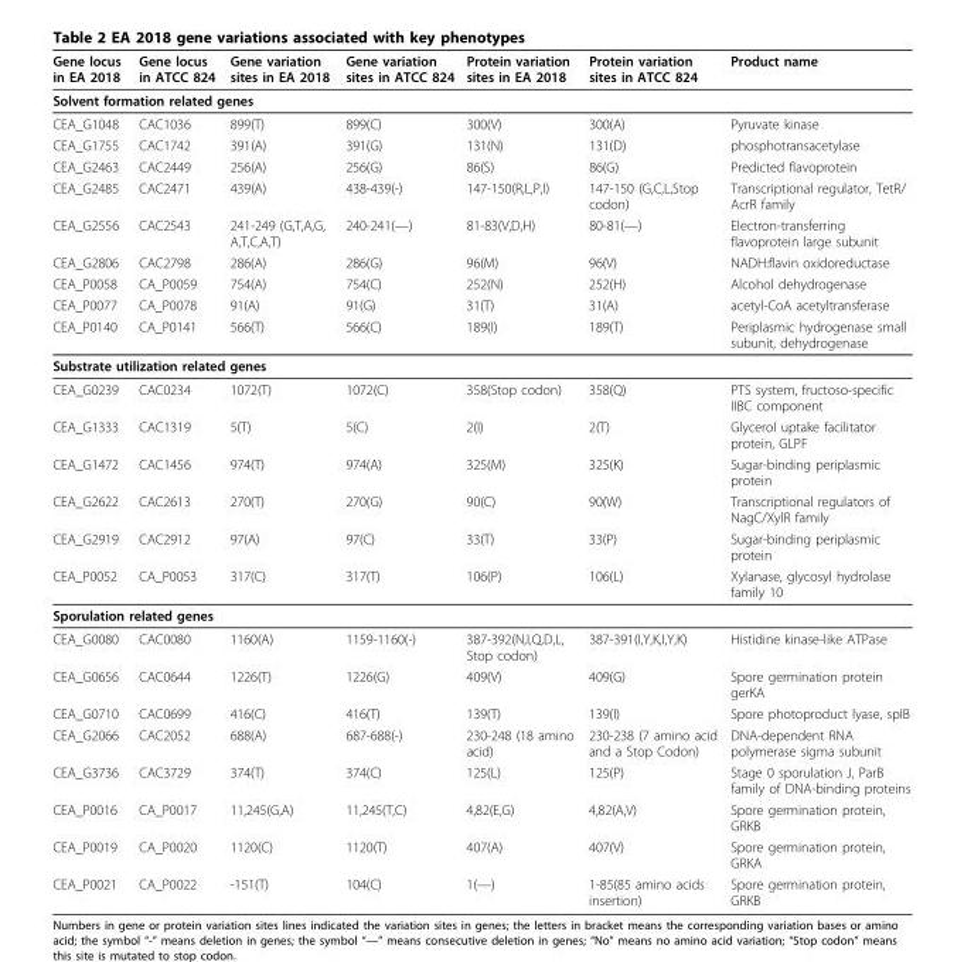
<table><thead><tr><td>Gene locus in EA 2018</td><td>Gene locus in ATCC 824</td><td>Gene variation sites in EA 2018</td><td>Gene variation sites in ATCC 824</td><td>Protein variation sites in EA 2018</td><td>Protein variation sites in ATCC 824</td><td>Product name</td></tr></thead><tbody><tr><td colspan="7">Solvent formation related genes</td></tr><tr><td>CEA_G1048</td><td>CAC1036</td><td>899(T)</td><td>899(C)</td><td>300(V)</td><td>300(A)</td><td>Pyruvate kinase</td></tr><tr><td>CEA_G1755</td><td>CAC1742</td><td>391(A)</td><td>391(G)</td><td>131(N)</td><td>131(D)</td><td>phosphotransacetylase</td></tr><tr><td>CEA_G2463</td><td>CAC2449</td><td>256(A)</td><td>256(G)</td><td>86(S)</td><td>86(G)</td><td>Predicted flavoprotein</td></tr><tr><td>CEA_G2485</td><td>CAC2471</td><td>439(A)</td><td>438-439(-)</td><td>147-150(R,L,P,I)</td><td>147-150 (G,C,L,Stop codon)</td><td>Transcriptional regulator, TetR/ AcrR family</td></tr><tr><td>CEA_G2556</td><td>CAC2543</td><td>241-249 (G,T,A,G, A,T,C,A,T)</td><td>240-241(—)</td><td>81-83(V,D,H)</td><td>80-81(—)</td><td>Electron-transferring flavoprotein large subunit</td></tr><tr><td>CEA_G2806</td><td>CAC2798</td><td>286(A)</td><td>286(G)</td><td>96(M)</td><td>96(V)</td><td>NADH:flavin oxidoreductase</td></tr><tr><td>CEA_P0058</td><td>CA_P0059</td><td>754(A)</td><td>754(C)</td><td>252(N)</td><td>252(H)</td><td>Alcohol dehydrogenase</td></tr><tr><td>CEA_P0077</td><td>CA_P0078</td><td>91(A)</td><td>91(G)</td><td>31(T)</td><td>31(A)</td><td>acetyl-CoA acetyltransferase</td></tr><tr><td>CEA_P0140</td><td>CA_P0141</td><td>566(T)</td><td>566(C)</td><td>189(I)</td><td>189(T)</td><td>Periplasmic hydrogenase small subunit, dehydrogenase</td></tr><tr><td colspan="7">Substrate utilization related genes</td></tr><tr><td>CEA_G0239</td><td>CAC0234</td><td>1072(T)</td><td>1072(C)</td><td>358(Stop codon)</td><td>358(Q)</td><td>PTS system, fructoso-specific IIBC component</td></tr><tr><td>CEA_G1333</td><td>CAC1319</td><td>5(T)</td><td>5(C)</td><td>2(I)</td><td>2(T)</td><td>Glycerol uptake facilitator protein, GLPF</td></tr><tr><td>CEA_G1472</td><td>CAC1456</td><td>974(T)</td><td>974(A)</td><td>325(M)</td><td>325(K)</td><td>Sugar-binding periplasmic protein</td></tr><tr><td>CEA_G2622</td><td>CAC2613</td><td>270(T)</td><td>270(G)</td><td>90(C)</td><td>90(W)</td><td>Transcriptional regulators of NagC/XylR family</td></tr><tr><td>CEA_G2919</td><td>CAC2912</td><td>97(A)</td><td>97(C)</td><td>33(T)</td><td>33(P)</td><td>Sugar-binding periplasmic protein</td></tr><tr><td>CEA_P0052</td><td>CA_P0053</td><td>317(C)</td><td>317(T)</td><td>106(P)</td><td>106(L)</td><td>Xylanase, glycosyl hydrolase family 10</td></tr><tr><td colspan="7">Sporulation related genes</td></tr><tr><td>CEA_G0080</td><td>CAC0080</td><td>1160(A)</td><td>1159-1160(-)</td><td>387-392(N,I,Q,D,L, Stop codon)</td><td>387-391(I,Y,K,I,Y,K)</td><td>Histidine kinase-like ATPase</td></tr><tr><td>CEA_G0656</td><td>CAC0644</td><td>1226(T)</td><td>1226(G)</td><td>409(V)</td><td>409(G)</td><td>Spore germination protein gerKA</td></tr><tr><td>CEA_G0710</td><td>CAC0699</td><td>416(C)</td><td>416(T)</td><td>139(T)</td><td>139(I)</td><td>Spore photoproduct lyase, splB</td></tr><tr><td>CEA_G2066</td><td>CAC2052</td><td>688(A)</td><td>687-688(-)</td><td>230-248 (18 amino acid)</td><td>230-238 (7 amino acid and a Stop Codon)</td><td>DNA-dependent RNA polymerase sigma subunit</td></tr><tr><td>CEA_G3736</td><td>CAC3729</td><td>374(T)</td><td>374(C)</td><td>125(L)</td><td>125(P)</td><td>Stage 0 sporulation J, ParB family of DNA-binding proteins</td></tr><tr><td>CEA_P0016</td><td>CA_P0017</td><td>11,245(G,A)</td><td>11,245(T,C)</td><td>4,82(E,G)</td><td>4,82(A,V)</td><td>Spore germination protein, GRKB</td></tr><tr><td>CEA_P0019</td><td>CA_P0020</td><td>1120(C)</td><td>1120(T)</td><td>407(A)</td><td>407(V)</td><td>Spore germination protein, GRKA</td></tr><tr><td>CEA_P0021</td><td>CA_P0022</td><td>-151(T)</td><td>104(C)</td><td>1(—)</td><td>1-85(85 amino acids insertion)</td><td>Spore germination protein, GRKB</td></tr></tbody></table>